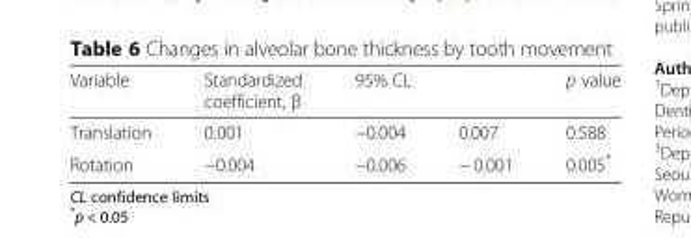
<table><thead><tr><td rowspan="2">Variable Translation</td><td rowspan="2">Standardized coefficient, β 0.001</td><td colspan="2">95% CL</td><td rowspan="2">p value 0.588</td></tr><tr><td>−0.004</td><td>0.007</td></tr></thead><tbody><tr><td>Rotation</td><td>−0.004</td><td>−0.006</td><td>− 0.001</td><td>0.005*</td></tr></tbody></table>